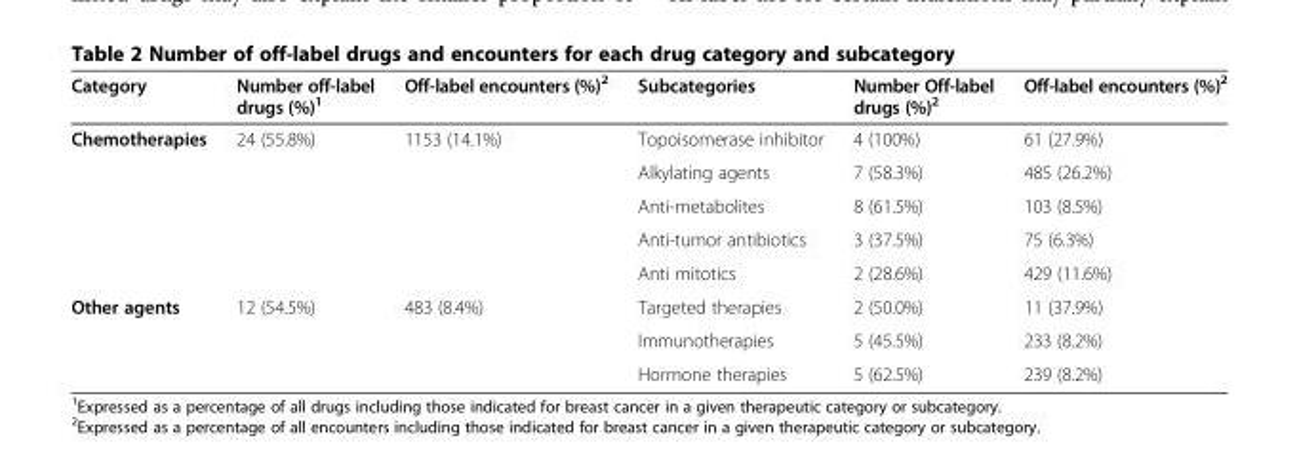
<table><thead><tr><td>Category</td><td>Number off-label drugs (%)<sup>1</sup></td><td>Off-label encounters (%)<sup>2</sup></td><td>Subcategories</td><td>Number Off-label drugs (%)<sup>2</sup></td><td>Off-label encounters (%)<sup>2</sup></td></tr></thead><tbody><tr><td rowspan="5">Chemotherapies</td><td>24 (55.8%)</td><td>1153 (14.1%)</td><td>Topoisomerase inhibitor</td><td>4 (100%)</td><td>61 (27.9%)</td></tr><tr><td></td><td></td><td>Alkylating agents</td><td>7 (58.3%)</td><td>485 (26.2%)</td></tr><tr><td></td><td></td><td>Anti-metabolites</td><td>8 (61.5%)</td><td>103 (8.5%)</td></tr><tr><td></td><td></td><td>Anti-tumor antibiotics</td><td>3 (37.5%)</td><td>75 (6.3%)</td></tr><tr><td></td><td></td><td>Anti mitotics</td><td>2 (28.6%)</td><td>429 (11.6%)</td></tr><tr><td rowspan="3">Other agents</td><td>12 (54.5%)</td><td>483 (8.4%)</td><td>Targeted therapies</td><td>2 (50.0%)</td><td>11 (37.9%)</td></tr><tr><td></td><td></td><td>Immunotherapies</td><td>5 (45.5%)</td><td>233 (8.2%)</td></tr><tr><td></td><td></td><td>Hormone therapies</td><td>5 (62.5%)</td><td>239 (8.2%)</td></tr></tbody></table>